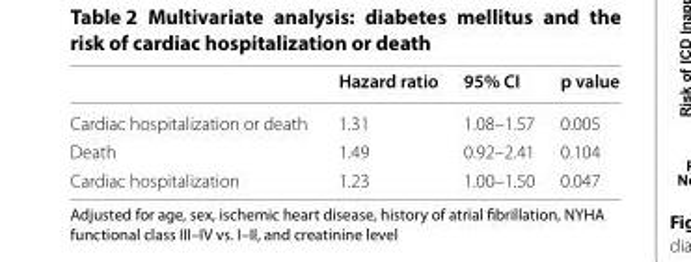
<table><thead><tr><td></td><td>Hazard ratio</td><td>95% CI</td><td>p value</td></tr></thead><tbody><tr><td>Cardiac hospitalization or death</td><td>1.31</td><td>1.08–1.57</td><td>0.005</td></tr><tr><td>Death</td><td>1.49</td><td>0.92–2.41</td><td>0.104</td></tr><tr><td>Cardiac hospitalization</td><td>1.23</td><td>1.00–1.50</td><td>0.047</td></tr></tbody></table>